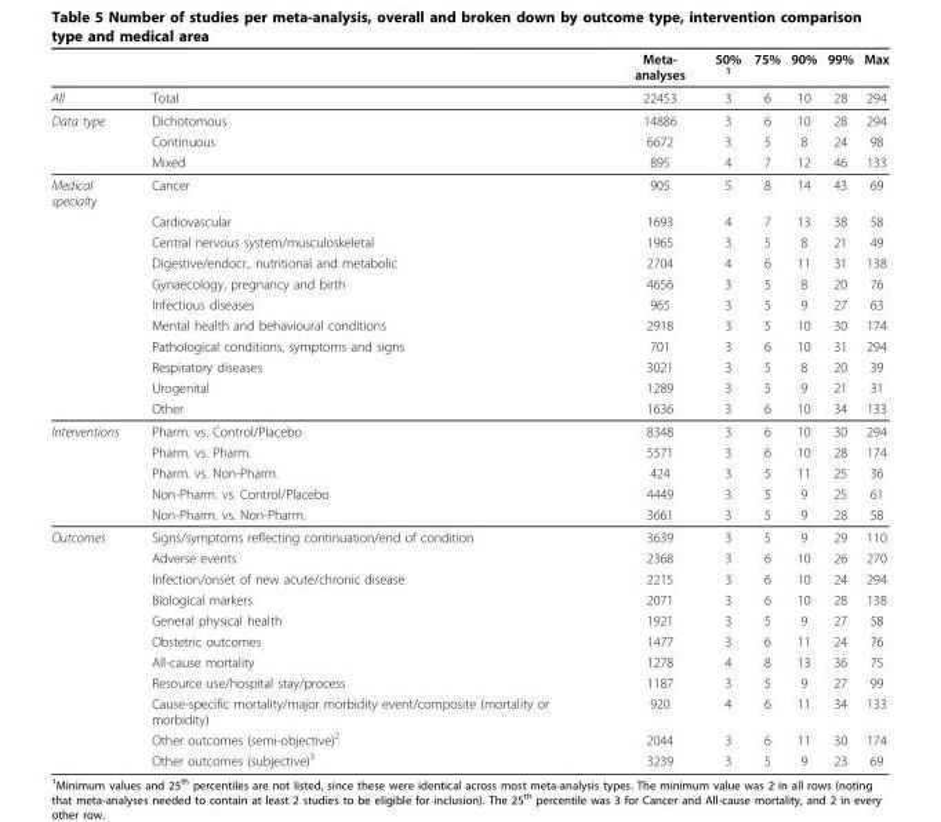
<table><thead><tr><td></td><td></td><td>Meta- analyses</td><td>50% <sup>1</sup></td><td>75%</td><td>90%</td><td>99%</td><td>Max</td></tr></thead><tbody><tr><td>All</td><td>Total</td><td>22453</td><td>3</td><td>6</td><td>10</td><td>28</td><td>294</td></tr><tr><td rowspan="3">Data type</td><td>Dichotomous</td><td>14886</td><td>3</td><td>6</td><td>10</td><td>28</td><td>294</td></tr><tr><td>Continuous</td><td>6672</td><td>3</td><td>5</td><td>8</td><td>24</td><td>98</td></tr><tr><td>Mixed</td><td>895</td><td>4</td><td>7</td><td>12</td><td>46</td><td>133</td></tr><tr><td rowspan="11">Medical specialty</td><td>Cancer</td><td>905</td><td>5</td><td>8</td><td>14</td><td>43</td><td>69</td></tr><tr><td>Cardiovascular</td><td>1693</td><td>4</td><td>7</td><td>13</td><td>38</td><td>58</td></tr><tr><td>Central nervous system/musculoskeletal</td><td>1965</td><td>3</td><td>5</td><td>8</td><td>21</td><td>49</td></tr><tr><td>Digestive/endocr., nutritional and metabolic</td><td>2704</td><td>4</td><td>6</td><td>11</td><td>31</td><td>138</td></tr><tr><td>Gynaecology, pregnancy and birth</td><td>4656</td><td>3</td><td>5</td><td>8</td><td>20</td><td>76</td></tr><tr><td>Infectious diseases</td><td>965</td><td>3</td><td>5</td><td>9</td><td>27</td><td>63</td></tr><tr><td>Mental health and behavioural conditions</td><td>2918</td><td>3</td><td>5</td><td>10</td><td>30</td><td>174</td></tr><tr><td>Pathological conditions, symptoms and signs</td><td>701</td><td>3</td><td>6</td><td>10</td><td>31</td><td>294</td></tr><tr><td>Respiratory diseases</td><td>3021</td><td>3</td><td>5</td><td>8</td><td>20</td><td>39</td></tr><tr><td>Urogenital</td><td>1289</td><td>3</td><td>5</td><td>9</td><td>21</td><td>31</td></tr><tr><td>Other</td><td>1636</td><td>3</td><td>6</td><td>10</td><td>34</td><td>133</td></tr><tr><td rowspan="5">Interventions</td><td>Pharm. vs. Control/Placebo</td><td>8348</td><td>3</td><td>6</td><td>10</td><td>30</td><td>294</td></tr><tr><td>Pharm. vs. Pharm.</td><td>5571</td><td>3</td><td>6</td><td>10</td><td>28</td><td>174</td></tr><tr><td>Pharm. vs. Non-Pharm.</td><td>424</td><td>3</td><td>5</td><td>11</td><td>25</td><td>36</td></tr><tr><td>Non-Pharm. vs. Control/Placebo</td><td>4449</td><td>3</td><td>5</td><td>9</td><td>25</td><td>61</td></tr><tr><td>Non-Pharm. vs. Non-Pharm.</td><td>3661</td><td>3</td><td>5</td><td>9</td><td>28</td><td>58</td></tr><tr><td rowspan="11">Outcomes</td><td>Signs/symptoms reflecting continuation/end of condition</td><td>3639</td><td>3</td><td>5</td><td>9</td><td>29</td><td>110</td></tr><tr><td>Adverse events</td><td>2368</td><td>3</td><td>6</td><td>10</td><td>26</td><td>270</td></tr><tr><td>Infection/onset of new acute/chronic disease</td><td>2215</td><td>3</td><td>6</td><td>10</td><td>24</td><td>294</td></tr><tr><td>Biological markers</td><td>2071</td><td>3</td><td>6</td><td>10</td><td>28</td><td>138</td></tr><tr><td>General physical health</td><td>1921</td><td>3</td><td>5</td><td>9</td><td>27</td><td>58</td></tr><tr><td>Obstetric outcomes</td><td>1477</td><td>3</td><td>6</td><td>11</td><td>24</td><td>76</td></tr><tr><td>All-cause mortality</td><td>1278</td><td>4</td><td>8</td><td>13</td><td>36</td><td>75</td></tr><tr><td>Resource use/hospital stay/process</td><td>1187</td><td>3</td><td>5</td><td>9</td><td>27</td><td>99</td></tr><tr><td>Cause-specific mortality/major morbidity event/composite (mortality or morbidity)</td><td>920</td><td>4</td><td>6</td><td>11</td><td>34</td><td>133</td></tr><tr><td>Other outcomes (semi-objective)<sup>2</sup></td><td>2044</td><td>3</td><td>6</td><td>11</td><td>30</td><td>174</td></tr><tr><td>Other outcomes (subjective)<sup>3</sup></td><td>3239</td><td>3</td><td>5</td><td>9</td><td>23</td><td>69</td></tr></tbody></table>